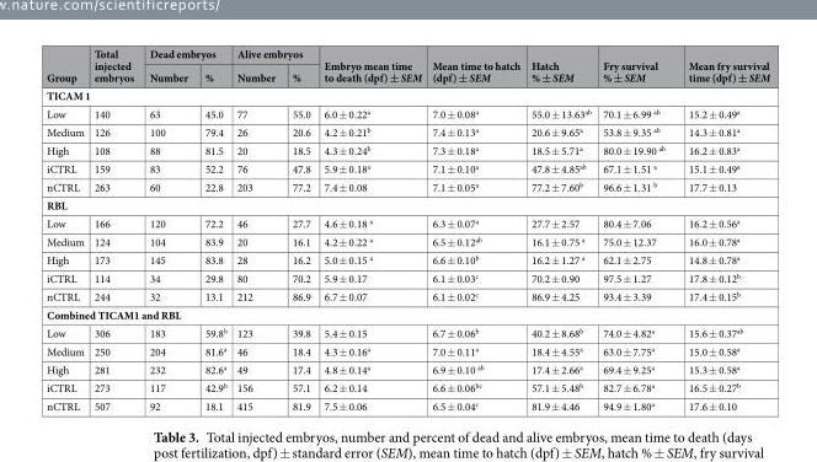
<table><thead><tr><td rowspan="2">Group</td><td rowspan="2">Total injected embryos</td><td colspan="2">Dead embryos</td><td colspan="2">Alive embryos</td><td rowspan="2">Embryo mean time to death (dpf) ± SEM</td><td rowspan="2">Mean time to hatch (dpf) ± SEM</td><td rowspan="2">Hatch % ± SEM</td><td rowspan="2">Fry survival % ± SEM</td><td rowspan="2">Mean fry survival time (dpf) ± SEM</td></tr><tr><td>Number</td><td>%</td><td>Number</td><td>%</td></tr></thead><tbody><tr><td colspan="11">TICAM 1</td></tr><tr><td>Low</td><td>140</td><td>63</td><td>45.0</td><td>77</td><td>55.0</td><td>6.0 ± 0.22<sup>a</sup></td><td>7.0 ± 0.08<sup>a</sup></td><td>55.0 ± 13.63<sup>ab</sup></td><td>70.1 ± 6.99 <sup>ab</sup></td><td>15.2 ± 0.49<sup>a</sup></td></tr><tr><td>Medium</td><td>126</td><td>100</td><td>79.4</td><td>26</td><td>20.6</td><td>4.2 ± 0.21<sup>b</sup></td><td>7.4 ± 0.13<sup>a</sup></td><td>20.6 ± 9.65<sup>a</sup></td><td>53.8 ± 9.35 <sup>ab</sup></td><td>14.3 ± 0.81<sup>a</sup></td></tr><tr><td>High</td><td>108</td><td>88</td><td>81.5</td><td>20</td><td>18.5</td><td>4.3 ± 0.24<sup>b</sup></td><td>7.3 ± 0.18<sup>a</sup></td><td>18.5 ± 5.71<sup>a</sup></td><td>80.0 ± 19.90 <sup>ab</sup></td><td>16.2 ± 0.83<sup>a</sup></td></tr><tr><td>iCTRL</td><td>159</td><td>83</td><td>52.2</td><td>76</td><td>47.8</td><td>5.9 ± 0.18<sup>a</sup></td><td>7.1 ± 0.10<sup>a</sup></td><td>47.8 ± 4.85<sup>ab</sup></td><td>67.1 ± 1.51 <sup>a</sup></td><td>15.1 ± 0.49<sup>a</sup></td></tr><tr><td>nCTRL</td><td>263</td><td>60</td><td>22.8</td><td>203</td><td>77.2</td><td>7.4 ± 0.08</td><td>7.1 ± 0.05<sup>a</sup></td><td>77.2 ± 7.60<sup>b</sup></td><td>96.6 ± 1.31 <sup>b</sup></td><td>17.7 ± 0.13</td></tr><tr><td colspan="11">RBL</td></tr><tr><td>Low</td><td>166</td><td>120</td><td>72.2</td><td>46</td><td>27.7</td><td>4.6 ± 0.18 <sup>a</sup></td><td>6.3 ± 0.07<sup>a</sup></td><td>27.7 ± 2.57</td><td>80.4 ± 7.06</td><td>16.2 ± 0.56<sup>a</sup></td></tr><tr><td>Medium</td><td>124</td><td>104</td><td>83.9</td><td>20</td><td>16.1</td><td>4.2 ± 0.22 <sup>a</sup></td><td>6.5 ± 0.12<sup>ab</sup></td><td>16.1 ± 0.75 <sup>a</sup></td><td>75.0 ± 12.37</td><td>16.0 ± 0.78<sup>a</sup></td></tr><tr><td>High</td><td>173</td><td>145</td><td>83.8</td><td>28</td><td>16.2</td><td>5.0 ± 0.15 <sup>a</sup></td><td>6.6 ± 0.10<sup>b</sup></td><td>16.2 ± 1.27 <sup>a</sup></td><td>62.1 ± 2.75</td><td>14.8 ± 0.78<sup>a</sup></td></tr><tr><td>iCTRL</td><td>114</td><td>34</td><td>29.8</td><td>80</td><td>70.2</td><td>5.9 ± 0.17</td><td>6.1 ± 0.03<sup>c</sup></td><td>70.2 ± 0.90</td><td>97.5 ± 1.27</td><td>17.8 ± 0.12<sup>b</sup></td></tr><tr><td>nCTRL</td><td>244</td><td>32</td><td>13.1</td><td>212</td><td>86.9</td><td>6.7 ± 0.07</td><td>6.1 ± 0.02<sup>c</sup></td><td>86.9 ± 4.25</td><td>93.4 ± 3.39</td><td>17.4 ± 0.15<sup>b</sup></td></tr><tr><td colspan="11">Combined TICAM1 and RBL</td></tr><tr><td>Low</td><td>306</td><td>183</td><td>59.8<sup>b</sup></td><td>123</td><td>39.8</td><td>5.4 ± 0.15</td><td>6.7 ± 0.06<sup>b</sup></td><td>40.2 ± 8.68<sup>b</sup></td><td>74.0 ± 4.82<sup>a</sup></td><td>15.6 ± 0.37<sup>ab</sup></td></tr><tr><td>Medium</td><td>250</td><td>204</td><td>81.6<sup>a</sup></td><td>46</td><td>18.4</td><td>4.3 ± 0.16<sup>a</sup></td><td>7.0 ± 0.11<sup>a</sup></td><td>18.4 ± 4.55<sup>a</sup></td><td>63.0 ± 7.75<sup>a</sup></td><td>15.0 ± 0.58<sup>a</sup></td></tr><tr><td>High</td><td>281</td><td>232</td><td>82.6<sup>a</sup></td><td>49</td><td>17.4</td><td>4.8 ± 0.14<sup>a</sup></td><td>6.9 ± 0.10 <sup>ab</sup></td><td>17.4 ± 2.66<sup>a</sup></td><td>69.4 ± 9.25<sup>a</sup></td><td>15.3 ± 0.58<sup>a</sup></td></tr><tr><td>iCTRL</td><td>273</td><td>117</td><td>42.9<sup>b</sup></td><td>156</td><td>57.1</td><td>6.2 ± 0.14</td><td>6.6 ± 0.06<sup>bc</sup></td><td>57.1 ± 5.48<sup>b</sup></td><td>82.7 ± 6.78<sup>a</sup></td><td>16.5 ± 0.27<sup>b</sup></td></tr><tr><td>nCTRL</td><td>507</td><td>92</td><td>18.1</td><td>415</td><td>81.9</td><td>7.5 ± 0.06</td><td>6.5 ± 0.04<sup>c</sup></td><td>81.9 ± 4.46</td><td>94.9 ± 1.80<sup>a</sup></td><td>17.6 ± 0.10</td></tr></tbody></table>